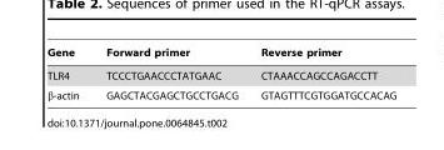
<table><thead><tr><td>Gene</td><td>Forward primer</td><td>Reverse primer</td></tr></thead><tbody><tr><td>TLR4</td><td>TCCCTGAACCCTATGAAC</td><td>CTAAACCAGCCAGACCTT</td></tr><tr><td>β-actin</td><td>GAGCTACGAGCTGCCTGACG</td><td>GTAGTTTCGTGGATGCCACAG</td></tr></tbody></table>